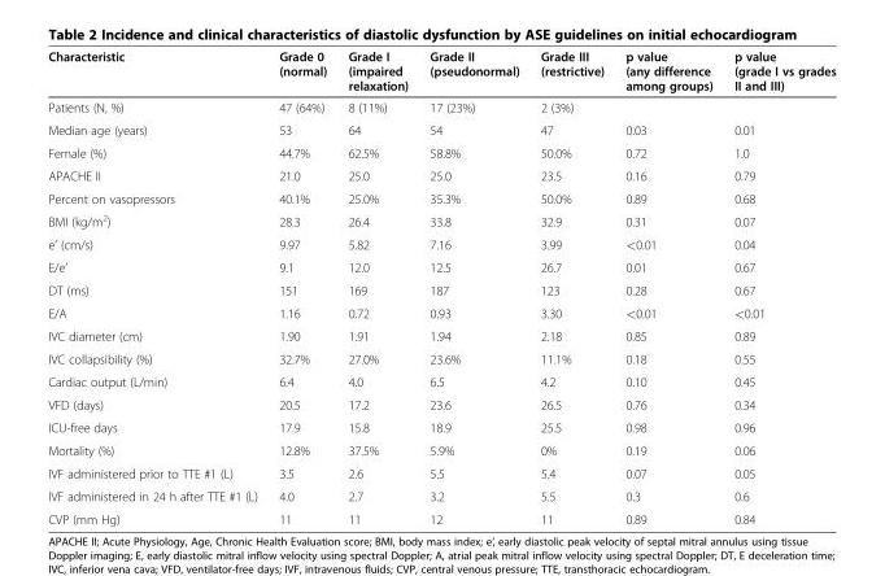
<table><thead><tr><td>Characteristic</td><td>Grade 0 (normal)</td><td>Grade I (impaired relaxation)</td><td>Grade II (pseudonormal)</td><td>Grade III (restrictive)</td><td>p value (any difference among groups)</td><td>p value (grade I vs grades II and III)</td></tr></thead><tbody><tr><td>Patients (N, %)</td><td>47 (64%)</td><td>8 (11%)</td><td>17 (23%)</td><td>2 (3%)</td><td></td><td></td></tr><tr><td>Median age (years)</td><td>53</td><td>64</td><td>54</td><td>47</td><td>0.03</td><td>0.01</td></tr><tr><td>Female (%)</td><td>44.7%</td><td>62.5%</td><td>58.8%</td><td>50.0%</td><td>0.72</td><td>1.0</td></tr><tr><td>APACHE II</td><td>21.0</td><td>25.0</td><td>25.0</td><td>23.5</td><td>0.16</td><td>0.79</td></tr><tr><td>Percent on vasopressors</td><td>40.1%</td><td>25.0%</td><td>35.3%</td><td>50.0%</td><td>0.89</td><td>0.68</td></tr><tr><td>BMI (kg/m<sup>2</sup>)</td><td>28.3</td><td>26.4</td><td>33.8</td><td>32.9</td><td>0.31</td><td>0.07</td></tr><tr><td>e’ (cm/s)</td><td>9.97</td><td>5.82</td><td>7.16</td><td>3.99</td><td>&lt;0.01</td><td>0.04</td></tr><tr><td>E/e’</td><td>9.1</td><td>12.0</td><td>12.5</td><td>26.7</td><td>0.01</td><td>0.67</td></tr><tr><td>DT (ms)</td><td>151</td><td>169</td><td>187</td><td>123</td><td>0.28</td><td>0.67</td></tr><tr><td>E/A</td><td>1.16</td><td>0.72</td><td>0.93</td><td>3.30</td><td>&lt;0.01</td><td>&lt;0.01</td></tr><tr><td>IVC diameter (cm)</td><td>1.90</td><td>1.91</td><td>1.94</td><td>2.18</td><td>0.85</td><td>0.89</td></tr><tr><td>IVC collapsibility (%)</td><td>32.7%</td><td>27.0%</td><td>23.6%</td><td>11.1%</td><td>0.18</td><td>0.55</td></tr><tr><td>Cardiac output (L/min)</td><td>6.4</td><td>4.0</td><td>6.5</td><td>4.2</td><td>0.10</td><td>0.45</td></tr><tr><td>VFD (days)</td><td>20.5</td><td>17.2</td><td>23.6</td><td>26.5</td><td>0.76</td><td>0.34</td></tr><tr><td>ICU-free days</td><td>17.9</td><td>15.8</td><td>18.9</td><td>25.5</td><td>0.98</td><td>0.96</td></tr><tr><td>Mortality (%)</td><td>12.8%</td><td>37.5%</td><td>5.9%</td><td>0%</td><td>0.19</td><td>0.06</td></tr><tr><td>IVF administered prior to TTE #1 (L)</td><td>3.5</td><td>2.6</td><td>5.5</td><td>5.4</td><td>0.07</td><td>0.05</td></tr><tr><td>IVF administered in 24 h after TTE #1 (L)</td><td>4.0</td><td>2.7</td><td>3.2</td><td>5.5</td><td>0.3</td><td>0.6</td></tr><tr><td>CVP (mm Hg)</td><td>11</td><td>11</td><td>12</td><td>11</td><td>0.89</td><td>0.84</td></tr></tbody></table>